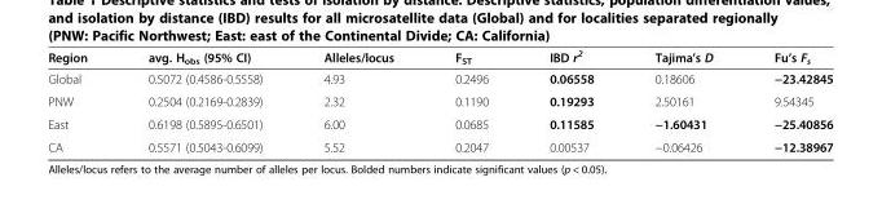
<table><thead><tr><td>Region</td><td>avg. H<sub>obs</sub> (95% CI)</td><td>Alleles/locus</td><td>F<sub>ST</sub></td><td>IBD r<sup>2</sup></td><td>Tajima’s D</td><td>Fu’s F<sub>s</sub></td></tr></thead><tbody><tr><td>Global</td><td>0.5072 (0.4586-0.5558)</td><td>4.93</td><td>0.2496</td><td>0.06558</td><td>0.18606</td><td>−23.42845</td></tr><tr><td>PNW</td><td>0.2504 (0.2169-0.2839)</td><td>2.32</td><td>0.1190</td><td>0.19293</td><td>2.50161</td><td>9.54345</td></tr><tr><td>East</td><td>0.6198 (0.5895-0.6501)</td><td>6.00</td><td>0.0685</td><td>0.11585</td><td>−1.60431</td><td>−25.40856</td></tr><tr><td>CA</td><td>0.5571 (0.5043-0.6099)</td><td>5.52</td><td>0.2047</td><td>0.00537</td><td>−0.06426</td><td>−12.38967</td></tr></tbody></table>